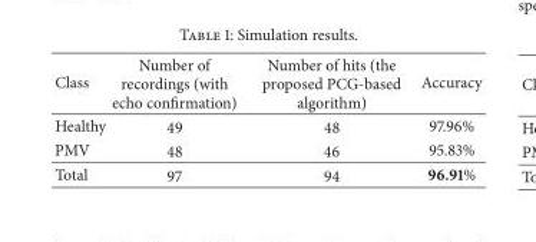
<table><thead><tr><td>Class</td><td>Number of recordings (with echo confirmation)</td><td>Number of hits (the proposed PCG-based algorithm)</td><td>Accuracy</td></tr></thead><tbody><tr><td>Healthy</td><td>49</td><td>48</td><td>97.96%</td></tr><tr><td>PMV</td><td>48</td><td>46</td><td>95.83%</td></tr><tr><td>Total</td><td>97</td><td>94</td><td>96.91%</td></tr></tbody></table>